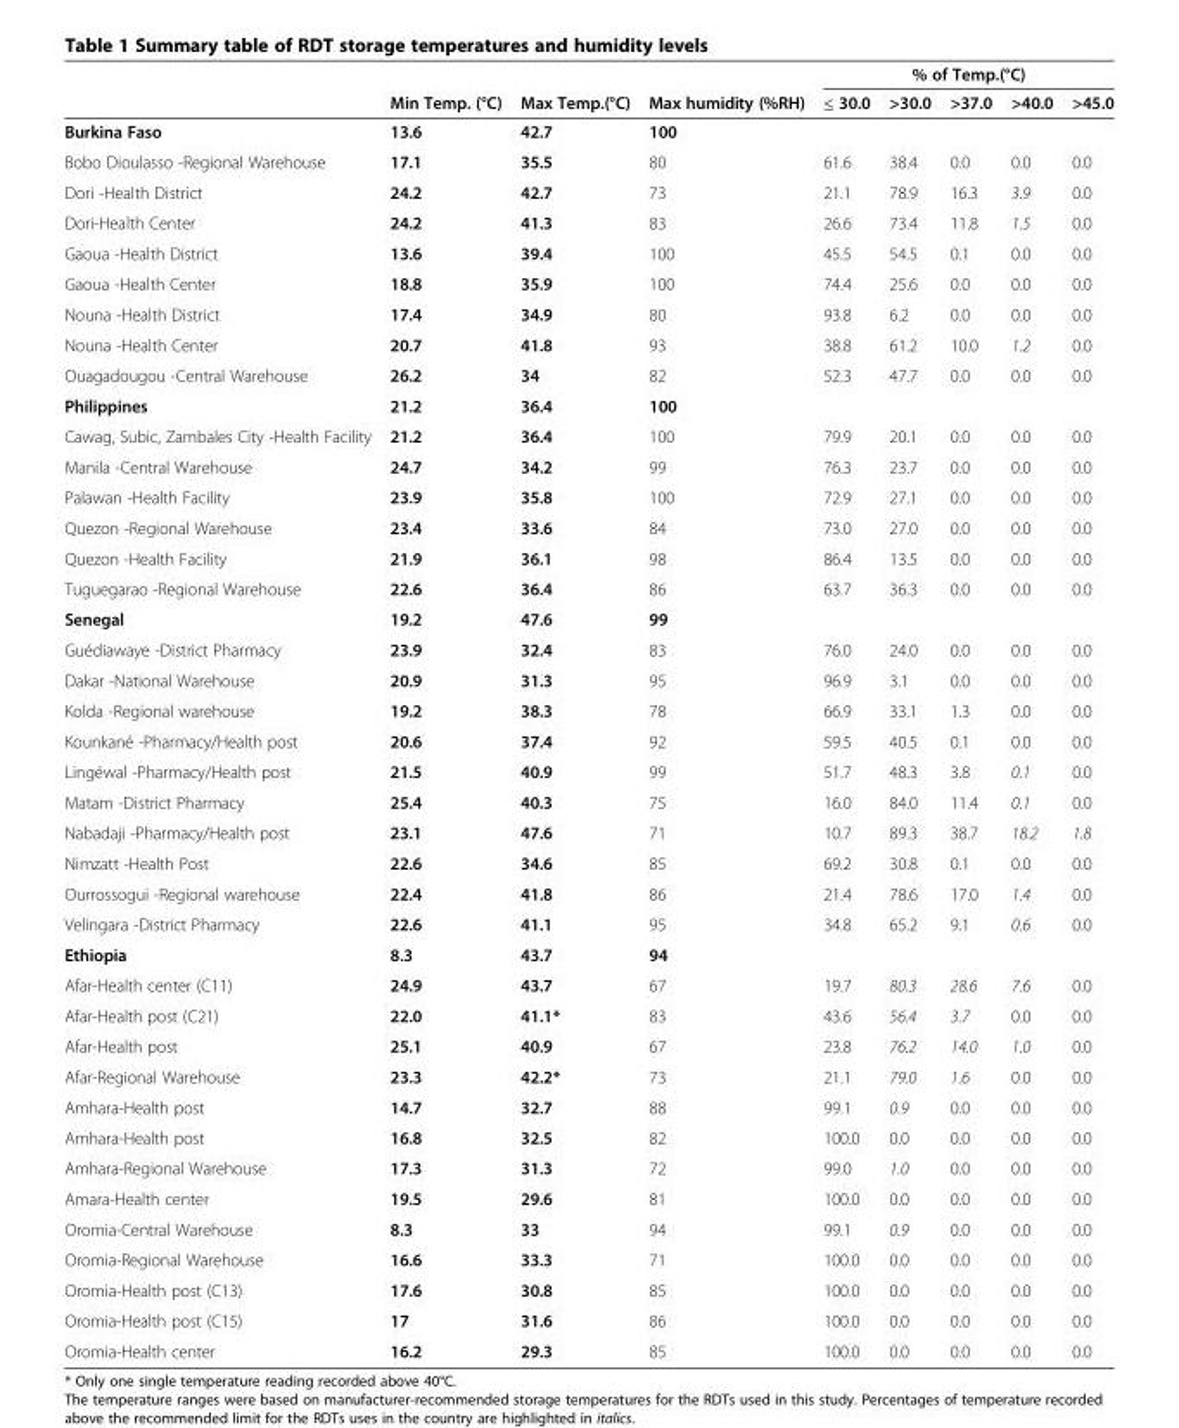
<table><thead><tr><td rowspan="2"></td><td rowspan="2">Min Temp. (°C)</td><td rowspan="2">Max Temp.(°C)</td><td rowspan="2">Max humidity (%RH)</td><td colspan="5">% of Temp.(°C)</td></tr><tr><td>≤ 30.0</td><td>&gt;30.0</td><td>&gt;37.0</td><td>&gt;40.0</td><td>&gt;45.0</td></tr></thead><tbody><tr><td>Burkina Faso</td><td>13.6</td><td>42.7</td><td>100</td><td></td><td></td><td></td><td></td><td></td></tr><tr><td>Bobo Dioulasso -Regional Warehouse</td><td>17.1</td><td>35.5</td><td>80</td><td>61.6</td><td>38.4</td><td>0.0</td><td>0.0</td><td>0.0</td></tr><tr><td>Dori -Health District</td><td>24.2</td><td>42.7</td><td>73</td><td>21.1</td><td>78.9</td><td>16.3</td><td>3.9</td><td>0.0</td></tr><tr><td>Dori-Health Center</td><td>24.2</td><td>41.3</td><td>83</td><td>26.6</td><td>73.4</td><td>11.8</td><td>1.5</td><td>0.0</td></tr><tr><td>Gaoua -Health District</td><td>13.6</td><td>39.4</td><td>100</td><td>45.5</td><td>54.5</td><td>0.1</td><td>0.0</td><td>0.0</td></tr><tr><td>Gaoua -Health Center</td><td>18.8</td><td>35.9</td><td>100</td><td>74.4</td><td>25.6</td><td>0.0</td><td>0.0</td><td>0.0</td></tr><tr><td>Nouna -Health District</td><td>17.4</td><td>34.9</td><td>80</td><td>93.8</td><td>6.2</td><td>0.0</td><td>0.0</td><td>0.0</td></tr><tr><td>Nouna -Health Center</td><td>20.7</td><td>41.8</td><td>93</td><td>38.8</td><td>61.2</td><td>10.0</td><td>1.2</td><td>0.0</td></tr><tr><td>Ouagadougou -Central Warehouse</td><td>26.2</td><td>34</td><td>82</td><td>52.3</td><td>47.7</td><td>0.0</td><td>0.0</td><td>0.0</td></tr><tr><td>Philippines</td><td>21.2</td><td>36.4</td><td>100</td><td></td><td></td><td></td><td></td><td></td></tr><tr><td>Cawag, Subic, Zambales City -Health Facility</td><td>21.2</td><td>36.4</td><td>100</td><td>79.9</td><td>20.1</td><td>0.0</td><td>0.0</td><td>0.0</td></tr><tr><td>Manila -Central Warehouse</td><td>24.7</td><td>34.2</td><td>99</td><td>76.3</td><td>23.7</td><td>0.0</td><td>0.0</td><td>0.0</td></tr><tr><td>Palawan -Health Facility</td><td>23.9</td><td>35.8</td><td>100</td><td>72.9</td><td>27.1</td><td>0.0</td><td>0.0</td><td>0.0</td></tr><tr><td>Quezon -Regional Warehouse</td><td>23.4</td><td>33.6</td><td>84</td><td>73.0</td><td>27.0</td><td>0.0</td><td>0.0</td><td>0.0</td></tr><tr><td>Quezon -Health Facility</td><td>21.9</td><td>36.1</td><td>98</td><td>86.4</td><td>13.5</td><td>0.0</td><td>0.0</td><td>0.0</td></tr><tr><td>Tuguegarao -Regional Warehouse</td><td>22.6</td><td>36.4</td><td>86</td><td>63.7</td><td>36.3</td><td>0.0</td><td>0.0</td><td>0.0</td></tr><tr><td>Senegal</td><td>19.2</td><td>47.6</td><td>99</td><td></td><td></td><td></td><td></td><td></td></tr><tr><td>Guédiawaye -District Pharmacy</td><td>23.9</td><td>32.4</td><td>83</td><td>76.0</td><td>24.0</td><td>0.0</td><td>0.0</td><td>0.0</td></tr><tr><td>Dakar -National Warehouse</td><td>20.9</td><td>31.3</td><td>95</td><td>96.9</td><td>3.1</td><td>0.0</td><td>0.0</td><td>0.0</td></tr><tr><td>Kolda -Regional warehouse</td><td>19.2</td><td>38.3</td><td>78</td><td>66.9</td><td>33.1</td><td>1.3</td><td>0.0</td><td>0.0</td></tr><tr><td>Kounkané -Pharmacy/Health post</td><td>20.6</td><td>37.4</td><td>92</td><td>59.5</td><td>40.5</td><td>0.1</td><td>0.0</td><td>0.0</td></tr><tr><td>Lingéwal -Pharmacy/Health post</td><td>21.5</td><td>40.9</td><td>99</td><td>51.7</td><td>48.3</td><td>3.8</td><td>0.1</td><td>0.0</td></tr><tr><td>Matam -District Pharmacy</td><td>25.4</td><td>40.3</td><td>75</td><td>16.0</td><td>84.0</td><td>11.4</td><td>0.1</td><td>0.0</td></tr><tr><td>Nabadaji -Pharmacy/Health post</td><td>23.1</td><td>47.6</td><td>71</td><td>10.7</td><td>89.3</td><td>38.7</td><td>18.2</td><td>1.8</td></tr><tr><td>Nimzatt -Health Post</td><td>22.6</td><td>34.6</td><td>85</td><td>69.2</td><td>30.8</td><td>0.1</td><td>0.0</td><td>0.0</td></tr><tr><td>Ourrossogui -Regional warehouse</td><td>22.4</td><td>41.8</td><td>86</td><td>21.4</td><td>78.6</td><td>17.0</td><td>1.4</td><td>0.0</td></tr><tr><td>Velingara -District Pharmacy</td><td>22.6</td><td>41.1</td><td>95</td><td>34.8</td><td>65.2</td><td>9.1</td><td>0.6</td><td>0.0</td></tr><tr><td>Ethiopia</td><td>8.3</td><td>43.7</td><td>94</td><td></td><td></td><td></td><td></td><td></td></tr><tr><td>Afar-Health center (C11)</td><td>24.9</td><td>43.7</td><td>67</td><td>19.7</td><td>80.3</td><td>28.6</td><td>7.6</td><td>0.0</td></tr><tr><td>Afar-Health post (C21)</td><td>22.0</td><td>41.1*</td><td>83</td><td>43.6</td><td>56.4</td><td>3.7</td><td>0.0</td><td>0.0</td></tr><tr><td>Afar-Health post</td><td>25.1</td><td>40.9</td><td>67</td><td>23.8</td><td>76.2</td><td>14.0</td><td>1.0</td><td>0.0</td></tr><tr><td>Afar-Regional Warehouse</td><td>23.3</td><td>42.2*</td><td>73</td><td>21.1</td><td>79.0</td><td>1.6</td><td>0.0</td><td>0.0</td></tr><tr><td>Amhara-Health post</td><td>14.7</td><td>32.7</td><td>88</td><td>99.1</td><td>0.9</td><td>0.0</td><td>0.0</td><td>0.0</td></tr><tr><td>Amhara-Health post</td><td>16.8</td><td>32.5</td><td>82</td><td>100.0</td><td>0.0</td><td>0.0</td><td>0.0</td><td>0.0</td></tr><tr><td>Amhara-Regional Warehouse</td><td>17.3</td><td>31.3</td><td>72</td><td>99.0</td><td>1.0</td><td>0.0</td><td>0.0</td><td>0.0</td></tr><tr><td>Amara-Health center</td><td>19.5</td><td>29.6</td><td>81</td><td>100.0</td><td>0.0</td><td>0.0</td><td>0.0</td><td>0.0</td></tr><tr><td>Oromia-Central Warehouse</td><td>8.3</td><td>33</td><td>94</td><td>99.1</td><td>0.9</td><td>0.0</td><td>0.0</td><td>0.0</td></tr><tr><td>Oromia-Regional Warehouse</td><td>16.6</td><td>33.3</td><td>71</td><td>100.0</td><td>0.0</td><td>0.0</td><td>0.0</td><td>0.0</td></tr><tr><td>Oromia-Health post (C13)</td><td>17.6</td><td>30.8</td><td>85</td><td>100.0</td><td>0.0</td><td>0.0</td><td>0.0</td><td>0.0</td></tr><tr><td>Oromia-Health post (C15)</td><td>17</td><td>31.6</td><td>86</td><td>100.0</td><td>0.0</td><td>0.0</td><td>0.0</td><td>0.0</td></tr><tr><td>Oromia-Health center</td><td>16.2</td><td>29.3</td><td>85</td><td>100.0</td><td>0.0</td><td>0.0</td><td>0.0</td><td>0.0</td></tr></tbody></table>